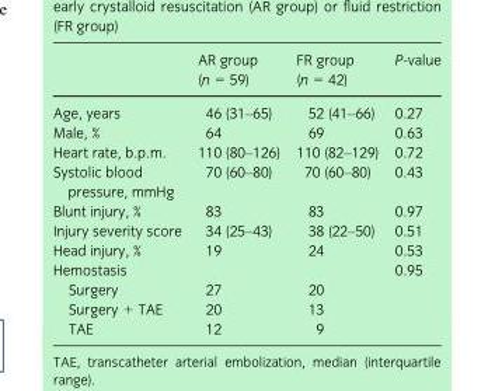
<table><thead><tr><td></td><td>AR group (n = 59)</td><td>FR group (n = 42)</td><td>P-value</td></tr></thead><tbody><tr><td>Age, years</td><td>46 (31–65)</td><td>52 (41–66)</td><td>0.27</td></tr><tr><td>Male, %</td><td>64</td><td>69</td><td>0.63</td></tr><tr><td>Heart rate, b.p.m.</td><td>110 (80–126)</td><td>110 (82–129)</td><td>0.72</td></tr><tr><td>Systolic blood pressure, mmHg</td><td>70 (60–80)</td><td>70 (60–80)</td><td>0.43</td></tr><tr><td>Blunt injury, %</td><td>83</td><td>83</td><td>0.97</td></tr><tr><td>Injury severity score</td><td>34 (25–43)</td><td>38 (22–50)</td><td>0.51</td></tr><tr><td>Head injury, %</td><td>19</td><td>24</td><td>0.53</td></tr><tr><td colspan="3">Hemostasis</td><td rowspan="4">0.95</td></tr><tr><td>Surgery</td><td>27</td><td>20</td></tr><tr><td>Surgery + TAE</td><td>20</td><td>13</td></tr><tr><td>TAE</td><td>12</td><td>9</td></tr></tbody></table>